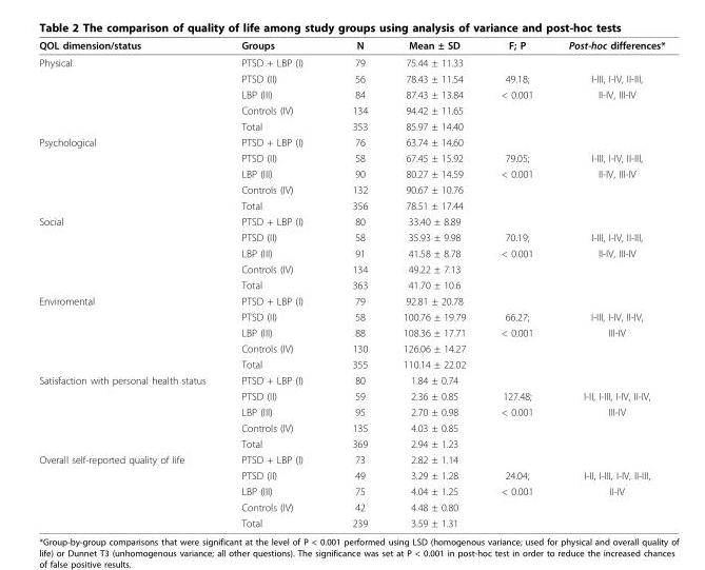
<table><thead><tr><td>QOL dimension/status</td><td>Groups</td><td>N</td><td>Mean ± SD</td><td>F; P</td><td>Post-hoc differences*</td></tr></thead><tbody><tr><td rowspan="5">Physical</td><td>PTSD + LBP (I)</td><td>79</td><td>75.44 ± 11.33</td><td></td><td></td></tr><tr><td>PTSD (II)</td><td>56</td><td>78.43 ± 11.54</td><td>49.18;</td><td>I-III, I-IV, II-III,</td></tr><tr><td>LBP (III)</td><td>84</td><td>87.43 ± 13.84</td><td>&lt; 0.001</td><td>II-IV, III-IV</td></tr><tr><td>Controls (IV)</td><td>134</td><td>94.42 ± 11.65</td><td></td><td></td></tr><tr><td>Total</td><td>353</td><td>85.97 ± 14.40</td><td></td><td></td></tr><tr><td rowspan="5">Psychological</td><td>PTSD + LBP (I)</td><td>76</td><td>63.74 ± 14.60</td><td></td><td></td></tr><tr><td>PTSD (II)</td><td>58</td><td>67.45 ± 15.92</td><td>79.05;</td><td>I-III, I-IV, II-III,</td></tr><tr><td>LBP (III)</td><td>90</td><td>80.27 ± 14.59</td><td>&lt; 0.001</td><td>II-IV, III-IV</td></tr><tr><td>Controls (IV)</td><td>132</td><td>90.67 ± 10.76</td><td></td><td></td></tr><tr><td>Total</td><td>356</td><td>78.51 ± 17.44</td><td></td><td></td></tr><tr><td rowspan="5">Social</td><td>PTSD + LBP (I)</td><td>80</td><td>33.40 ± 8.89</td><td></td><td></td></tr><tr><td>PTSD (II)</td><td>58</td><td>35.93 ± 9.98</td><td>70.19;</td><td>I-III, I-IV, II-III,</td></tr><tr><td>LBP (III)</td><td>91</td><td>41.58 ± 8.78</td><td>&lt; 0.001</td><td>II-IV, III-IV</td></tr><tr><td>Controls (IV)</td><td>134</td><td>49.22 ± 7.13</td><td></td><td></td></tr><tr><td>Total</td><td>363</td><td>41.70 ± 10.6</td><td></td><td></td></tr><tr><td rowspan="5">Enviromental</td><td>PTSD + LBP (I)</td><td>79</td><td>92.81 ± 20.78</td><td></td><td></td></tr><tr><td>PTSD (II)</td><td>58</td><td>100.76 ± 19.79</td><td>66.27;</td><td>I-III, I-IV, II-IV,</td></tr><tr><td>LBP (III)</td><td>88</td><td>108.36 ± 17.71</td><td>&lt; 0.001</td><td>III-IV</td></tr><tr><td>Controls (IV)</td><td>130</td><td>126.06 ± 14.27</td><td></td><td></td></tr><tr><td>Total</td><td>355</td><td>110.14 ± 22.02</td><td></td><td></td></tr><tr><td rowspan="5">Satisfaction with personal health status</td><td>PTSD + LBP (I)</td><td>80</td><td>1.84 ± 0.74</td><td></td><td></td></tr><tr><td>PTSD (II)</td><td>59</td><td>2.36 ± 0.85</td><td>127.48;</td><td>I-II, I-III, I-IV, II-IV,</td></tr><tr><td>LBP (III)</td><td>95</td><td>2.70 ± 0.98</td><td>&lt; 0.001</td><td>III-IV</td></tr><tr><td>Controls (IV)</td><td>135</td><td>4.03 ± 0.85</td><td></td><td></td></tr><tr><td>Total</td><td>369</td><td>2.94 ± 1.23</td><td></td><td></td></tr><tr><td rowspan="5">Overall self-reported quality of life</td><td>PTSD + LBP (I)</td><td>73</td><td>2.82 ± 1.14</td><td></td><td></td></tr><tr><td>PTSD (II)</td><td>49</td><td>3.29 ± 1.28</td><td>24.04;</td><td>I-II, I-III, I-IV, II-III,</td></tr><tr><td>LBP (III)</td><td>75</td><td>4.04 ± 1.25</td><td>&lt; 0.001</td><td>II-IV</td></tr><tr><td>Controls (IV)</td><td>42</td><td>4.48 ± 0.80</td><td></td><td></td></tr><tr><td>Total</td><td>239</td><td>3.59 ± 1.31</td><td></td><td></td></tr></tbody></table>